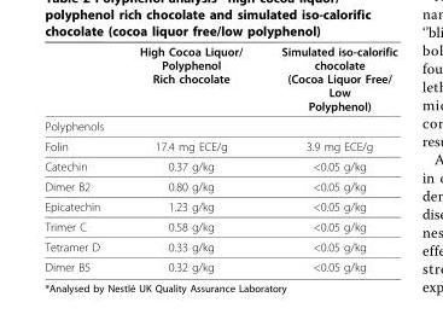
<table><thead><tr><td></td><td>High Cocoa Liquor/ Polyphenol Rich chocolate</td><td>Simulated iso-calorific chocolate (Cocoa Liquor Free/ Low Polyphenol)</td></tr></thead><tbody><tr><td colspan="3">Polyphenols</td></tr><tr><td>Folin</td><td>17.4 mg ECE/g</td><td>3.9 mg ECE/g</td></tr><tr><td>Catechin</td><td>0.37 g/kg</td><td>&lt;0.05 g/kg</td></tr><tr><td>Dimer B2</td><td>0.80 g/kg</td><td>&lt;0.05 g/kg</td></tr><tr><td>Epicatechin</td><td>1.23 g/kg</td><td>&lt;0.05 g/kg</td></tr><tr><td>Trimer C</td><td>0.58 g/kg</td><td>&lt;0.05 g/kg</td></tr><tr><td>Tetramer D</td><td>0.33 g/kg</td><td>&lt;0.05 g/kg</td></tr><tr><td>Dimer B5</td><td>0.32 g/kg</td><td>&lt;0.05 g/kg</td></tr></tbody></table>